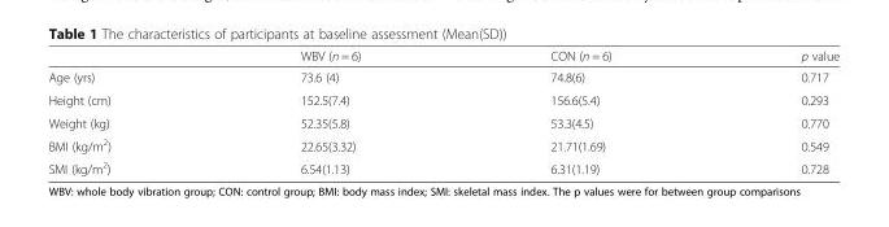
<table><thead><tr><td></td><td>WBV (n = 6)</td><td>CON (n = 6)</td><td>p value</td></tr></thead><tbody><tr><td>Age (yrs)</td><td>73.6 (4)</td><td>74.8(6)</td><td>0.717</td></tr><tr><td>Height (cm)</td><td>152.5(7.4)</td><td>156.6(5.4)</td><td>0.293</td></tr><tr><td>Weight (kg)</td><td>52.35(5.8)</td><td>53.3(4.5)</td><td>0.770</td></tr><tr><td>BMI (kg/m<sup>2</sup>)</td><td>22.65(3.32)</td><td>21.71(1.69)</td><td>0.549</td></tr><tr><td>SMI (kg/m<sup>2</sup>)</td><td>6.54(1.13)</td><td>6.31(1.19)</td><td>0.728</td></tr></tbody></table>